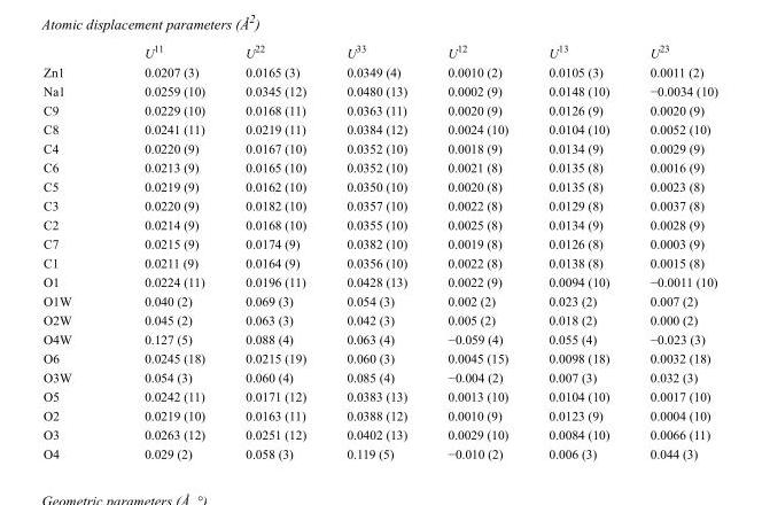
<table><thead><tr><td></td><td>U<sup>11</sup></td><td>U<sup>22</sup></td><td>U<sup>33</sup></td><td>U<sup>12</sup></td><td>U<sup>13</sup></td><td>U<sup>23</sup></td></tr></thead><tbody><tr><td>Zn1</td><td>0.0207 (3)</td><td>0.0165 (3)</td><td>0.0349 (4)</td><td>0.0010 (2)</td><td>0.0105 (3)</td><td>0.0011 (2)</td></tr><tr><td>Na1</td><td>0.0259 (10)</td><td>0.0345 (12)</td><td>0.0480 (13)</td><td>0.0002 (9)</td><td>0.0148 (10)</td><td>−0.0034 (10)</td></tr><tr><td>C9</td><td>0.0229 (10)</td><td>0.0168 (11)</td><td>0.0363 (11)</td><td>0.0020 (9)</td><td>0.0126 (9)</td><td>0.0020 (9)</td></tr><tr><td>C8</td><td>0.0241 (11)</td><td>0.0219 (11)</td><td>0.0384 (12)</td><td>0.0024 (10)</td><td>0.0104 (10)</td><td>0.0052 (10)</td></tr><tr><td>C4</td><td>0.0220 (9)</td><td>0.0167 (10)</td><td>0.0352 (10)</td><td>0.0018 (9)</td><td>0.0134 (9)</td><td>0.0029 (9)</td></tr><tr><td>C6</td><td>0.0213 (9)</td><td>0.0165 (10)</td><td>0.0352 (10)</td><td>0.0021 (8)</td><td>0.0135 (8)</td><td>0.0016 (9)</td></tr><tr><td>C5</td><td>0.0219 (9)</td><td>0.0162 (10)</td><td>0.0350 (10)</td><td>0.0020 (8)</td><td>0.0135 (8)</td><td>0.0023 (8)</td></tr><tr><td>C3</td><td>0.0220 (9)</td><td>0.0182 (10)</td><td>0.0357 (10)</td><td>0.0022 (8)</td><td>0.0129 (8)</td><td>0.0037 (8)</td></tr><tr><td>C2</td><td>0.0214 (9)</td><td>0.0168 (10)</td><td>0.0355 (10)</td><td>0.0025 (8)</td><td>0.0134 (9)</td><td>0.0028 (9)</td></tr><tr><td>C7</td><td>0.0215 (9)</td><td>0.0174 (9)</td><td>0.0382 (10)</td><td>0.0019 (8)</td><td>0.0126 (8)</td><td>0.0003 (9)</td></tr><tr><td>C1</td><td>0.0211 (9)</td><td>0.0164 (9)</td><td>0.0356 (10)</td><td>0.0022 (8)</td><td>0.0138 (8)</td><td>0.0015 (8)</td></tr><tr><td>O1</td><td>0.0224 (11)</td><td>0.0196 (11)</td><td>0.0428 (13)</td><td>0.0022 (9)</td><td>0.0094 (10)</td><td>−0.0011 (10)</td></tr><tr><td>O1W</td><td>0.040 (2)</td><td>0.069 (3)</td><td>0.054 (3)</td><td>0.002 (2)</td><td>0.023 (2)</td><td>0.007 (2)</td></tr><tr><td>O2W</td><td>0.045 (2)</td><td>0.063 (3)</td><td>0.042 (3)</td><td>0.005 (2)</td><td>0.018 (2)</td><td>0.000 (2)</td></tr><tr><td>O4W</td><td>0.127 (5)</td><td>0.088 (4)</td><td>0.063 (4)</td><td>−0.059 (4)</td><td>0.055 (4)</td><td>−0.023 (3)</td></tr><tr><td>O6</td><td>0.0245 (18)</td><td>0.0215 (19)</td><td>0.060 (3)</td><td>0.0045 (15)</td><td>0.0098 (18)</td><td>0.0032 (18)</td></tr><tr><td>O3W</td><td>0.054 (3)</td><td>0.060 (4)</td><td>0.085 (4)</td><td>−0.004 (2)</td><td>0.007 (3)</td><td>0.032 (3)</td></tr><tr><td>O5</td><td>0.0242 (11)</td><td>0.0171 (12)</td><td>0.0383 (13)</td><td>0.0013 (10)</td><td>0.0104 (10)</td><td>0.0017 (10)</td></tr><tr><td>O2</td><td>0.0219 (10)</td><td>0.0163 (11)</td><td>0.0388 (12)</td><td>0.0010 (9)</td><td>0.0123 (9)</td><td>0.0004 (10)</td></tr><tr><td>O3</td><td>0.0263 (12)</td><td>0.0251 (12)</td><td>0.0402 (13)</td><td>0.0029 (10)</td><td>0.0084 (10)</td><td>0.0066 (11)</td></tr><tr><td>O4</td><td>0.029 (2)</td><td>0.058 (3)</td><td>0.119 (5)</td><td>−0.010 (2)</td><td>0.006 (3)</td><td>0.044 (3)</td></tr></tbody></table>